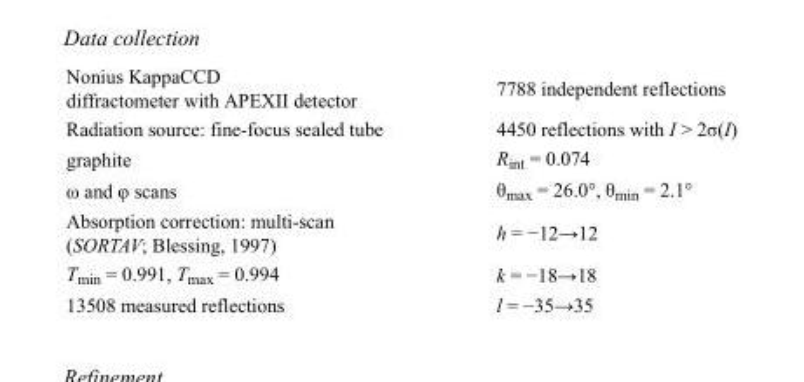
<table><tbody><tr><td>Nonius KappaCCD diffractometer with APEXII detector</td><td>7788 independent reflections</td></tr><tr><td>Radiation source: fine-focus sealed tube</td><td>4450 reflections with I &gt; 2σ(I)</td></tr><tr><td>graphite</td><td>R<sub>int</sub> = 0.074</td></tr><tr><td>ω and φ scans</td><td>θ<sub>max</sub> = 26.0°, θ<sub>min</sub> = 2.1°</td></tr><tr><td>Absorption correction: multi-scan (SORTAV; Blessing, 1997)</td><td>h = −12→12</td></tr><tr><td>T<sub>min</sub> = 0.991, T<sub>max</sub> = 0.994</td><td>k = −18→18</td></tr><tr><td>13508 measured reflections</td><td>l = −35→35</td></tr></tbody></table>